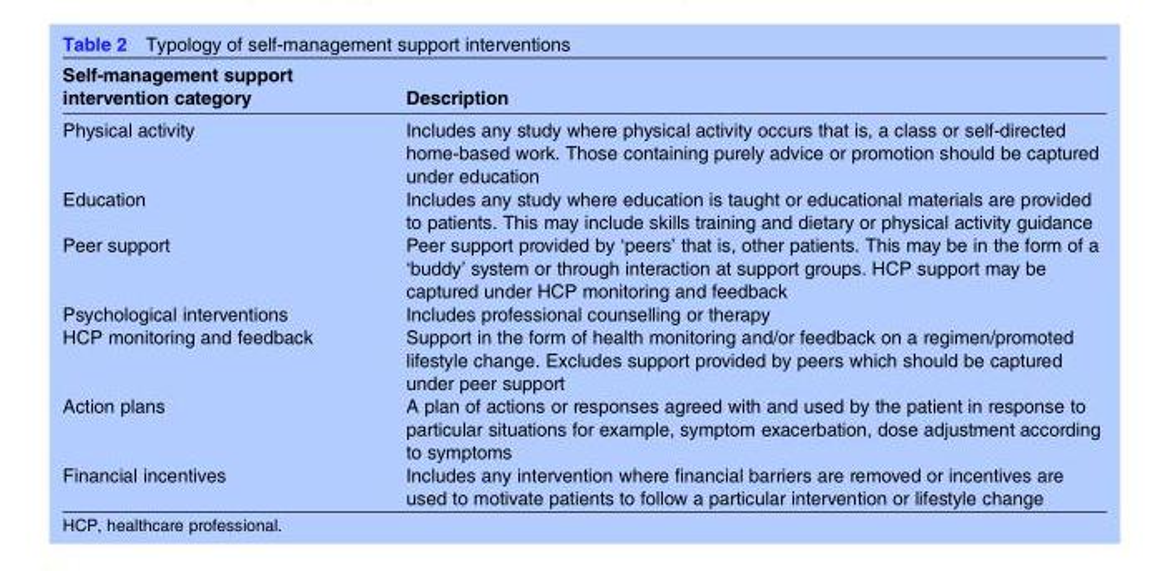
<table><thead><tr><td>Self-management support intervention category</td><td>Description</td></tr></thead><tbody><tr><td>Physical activity</td><td>Includes any study where physical activity occurs that is, a class or self-directed home-based work. Those containing purely advice or promotion should be captured under education</td></tr><tr><td>Education</td><td>Includes any study where education is taught or educational materials are provided to patients. This may include skills training and dietary or physical activity guidance</td></tr><tr><td>Peer support</td><td>Peer support provided by ‘peers’ that is, other patients. This may be in the form of a ‘buddy’ system or through interaction at support groups. HCP support may be captured under HCP monitoring and feedback</td></tr><tr><td>Psychological interventions</td><td>Includes professional counselling or therapy</td></tr><tr><td>HCP monitoring and feedback</td><td>Support in the form of health monitoring and/or feedback on a regimen/promoted lifestyle change. Excludes support provided by peers which should be captured under peer support</td></tr><tr><td>Action plans</td><td>A plan of actions or responses agreed with and used by the patient in response to particular situations for example, symptom exacerbation, dose adjustment according to symptoms</td></tr><tr><td>Financial incentives</td><td>Includes any intervention where financial barriers are removed or incentives are used to motivate patients to follow a particular intervention or lifestyle change</td></tr></tbody></table>